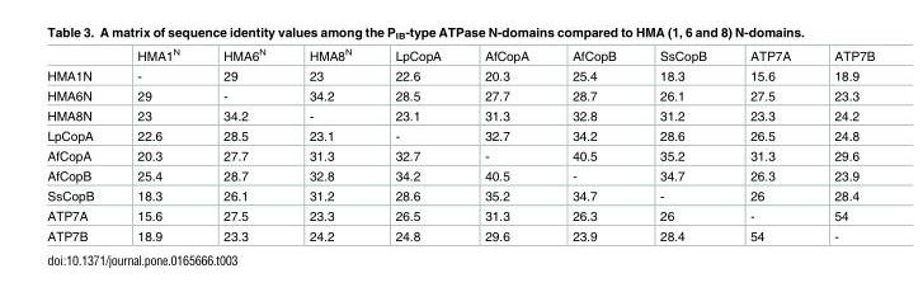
<table><thead><tr><td></td><td>HMA1<sup>N</sup></td><td>HMA6<sup>N</sup></td><td>HMA8<sup>N</sup></td><td>LpCopA</td><td>AfCopA</td><td>AfCopB</td><td>SsCopB</td><td>ATP7A</td><td>ATP7B</td></tr></thead><tbody><tr><td>HMA1N</td><td>-</td><td>29</td><td>23</td><td>22.6</td><td>20.3</td><td>25.4</td><td>18.3</td><td>15.6</td><td>18.9</td></tr><tr><td>HMA6N</td><td>29</td><td>-</td><td>34.2</td><td>28.5</td><td>27.7</td><td>28.7</td><td>26.1</td><td>27.5</td><td>23.3</td></tr><tr><td>HMA8N</td><td>23</td><td>34.2</td><td>-</td><td>23.1</td><td>31.3</td><td>32.8</td><td>31.2</td><td>23.3</td><td>24.2</td></tr><tr><td>LpCopA</td><td>22.6</td><td>28.5</td><td>23.1</td><td>-</td><td>32.7</td><td>34.2</td><td>28.6</td><td>26.5</td><td>24.8</td></tr><tr><td>AfCopA</td><td>20.3</td><td>27.7</td><td>31.3</td><td>32.7</td><td>-</td><td>40.5</td><td>35.2</td><td>31.3</td><td>29.6</td></tr><tr><td>AfCopB</td><td>25.4</td><td>28.7</td><td>32.8</td><td>34.2</td><td>40.5</td><td>-</td><td>34.7</td><td>26.3</td><td>23.9</td></tr><tr><td>SsCopB</td><td>18.3</td><td>26.1</td><td>31.2</td><td>28.6</td><td>35.2</td><td>34.7</td><td>-</td><td>26</td><td>28.4</td></tr><tr><td>ATP7A</td><td>15.6</td><td>27.5</td><td>23.3</td><td>26.5</td><td>31.3</td><td>26.3</td><td>26</td><td>-</td><td>54</td></tr><tr><td>ATP7B</td><td>18.9</td><td>23.3</td><td>24.2</td><td>24.8</td><td>29.6</td><td>23.9</td><td>28.4</td><td>54</td><td>-</td></tr></tbody></table>